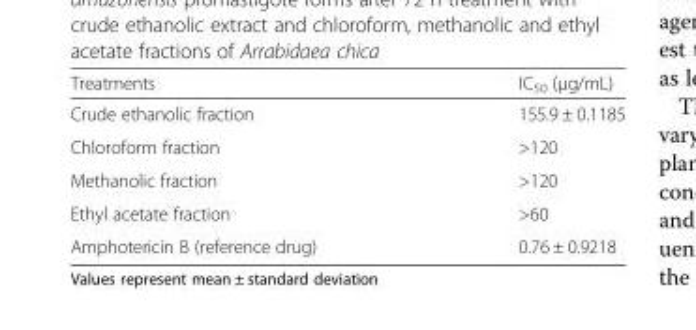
<table><thead><tr><td>Treatments</td><td>IC<sub>50</sub> (μg/mL)</td></tr></thead><tbody><tr><td>Crude ethanolic fraction</td><td>155.9 ± 0.1185</td></tr><tr><td>Chloroform fraction</td><td>&gt;120</td></tr><tr><td>Methanolic fraction</td><td>&gt;120</td></tr><tr><td>Ethyl acetate fraction</td><td>&gt;60</td></tr><tr><td>Amphotericin B (reference drug)</td><td>0.76 ± 0.9218</td></tr></tbody></table>